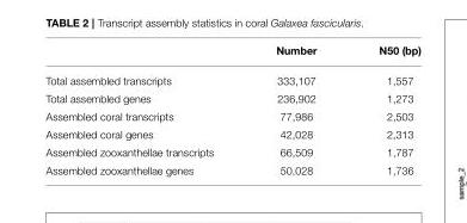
<table><thead><tr><td></td><td>Number</td><td>N50 (bp)</td></tr></thead><tbody><tr><td>Total assembled transcripts</td><td>333,107</td><td>1,557</td></tr><tr><td>Total assembled genes</td><td>236,902</td><td>1,273</td></tr><tr><td>Assembled coral transcripts</td><td>77,986</td><td>2,503</td></tr><tr><td>Assembled coral genes</td><td>42,028</td><td>2,313</td></tr><tr><td>Assembled zooxanthellae transcripts</td><td>66,509</td><td>1,787</td></tr><tr><td>Assembled zooxanthellae genes</td><td>50,028</td><td>1,736</td></tr></tbody></table>